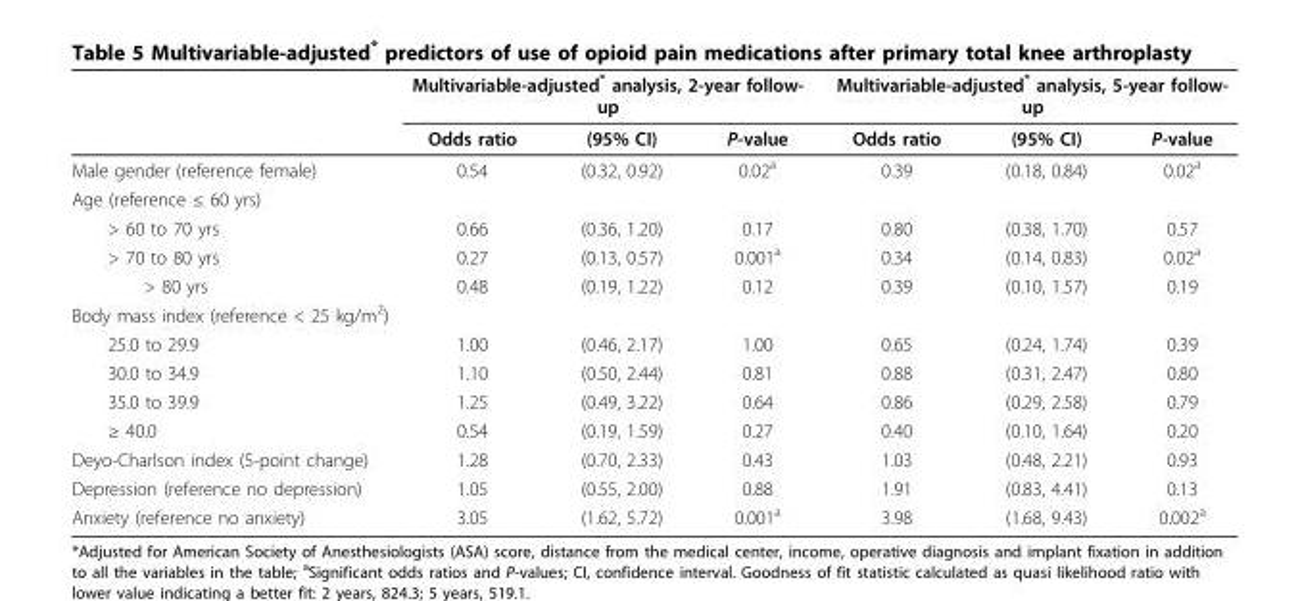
<table><thead><tr><td rowspan="2"></td><td colspan="3">Multivariable-adjusted* analysis, 2-year follow- up</td><td colspan="3">Multivariable-adjusted* analysis, 5-year follow- up</td></tr><tr><td>Odds ratio</td><td>(95% CI)</td><td>P-value</td><td>Odds ratio</td><td>(95% CI)</td><td>P-value</td></tr></thead><tbody><tr><td>Male gender (reference female)</td><td>0.54</td><td>(0.32, 0.92)</td><td>0.02<sup>a</sup></td><td>0.39</td><td>(0.18, 0.84)</td><td>0.02<sup>a</sup></td></tr><tr><td colspan="7">Age (reference ≤ 60 yrs)</td></tr><tr><td>&gt; 60 to 70 yrs</td><td>0.66</td><td>(0.36, 1.20)</td><td>0.17</td><td>0.80</td><td>(0.38, 1.70)</td><td>0.57</td></tr><tr><td>&gt; 70 to 80 yrs</td><td>0.27</td><td>(0.13, 0.57)</td><td>0.001<sup>a</sup></td><td>0.34</td><td>(0.14, 0.83)</td><td>0.02<sup>a</sup></td></tr><tr><td>&gt; 80 yrs</td><td>0.48</td><td>(0.19, 1.22)</td><td>0.12</td><td>0.39</td><td>(0.10, 1.57)</td><td>0.19</td></tr><tr><td colspan="7">Body mass index (reference &lt; 25 kg/m<sup>2</sup>)</td></tr><tr><td>25.0 to 29.9</td><td>1.00</td><td>(0.46, 2.17)</td><td>1.00</td><td>0.65</td><td>(0.24, 1.74)</td><td>0.39</td></tr><tr><td>30.0 to 34.9</td><td>1.10</td><td>(0.50, 2.44)</td><td>0.81</td><td>0.88</td><td>(0.31, 2.47)</td><td>0.80</td></tr><tr><td>35.0 to 39.9</td><td>1.25</td><td>(0.49, 3.22)</td><td>0.64</td><td>0.86</td><td>(0.29, 2.58)</td><td>0.79</td></tr><tr><td>≥ 40.0</td><td>0.54</td><td>(0.19, 1.59)</td><td>0.27</td><td>0.40</td><td>(0.10, 1.64)</td><td>0.20</td></tr><tr><td>Deyo-Charlson index (5-point change)</td><td>1.28</td><td>(0.70, 2.33)</td><td>0.43</td><td>1.03</td><td>(0.48, 2.21)</td><td>0.93</td></tr><tr><td>Depression (reference no depression)</td><td>1.05</td><td>(0.55, 2.00)</td><td>0.88</td><td>1.91</td><td>(0.83, 4.41)</td><td>0.13</td></tr><tr><td>Anxiety (reference no anxiety)</td><td>3.05</td><td>(1.62, 5.72)</td><td>0.001<sup>a</sup></td><td>3.98</td><td>(1.68, 9.43)</td><td>0.002<sup>a</sup></td></tr></tbody></table>